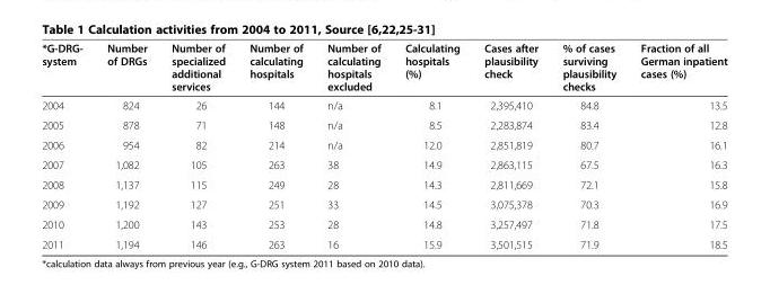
<table><thead><tr><td>*G-DRG- system</td><td>Number of DRGs</td><td>Number of specialized additional services</td><td>Number of calculating hospitals</td><td>Number of calculating hospitals excluded</td><td>Calculating hospitals (%)</td><td>Cases after plausibility check</td><td>% of cases surviving plausibility checks</td><td>Fraction of all German inpatient cases (%)</td></tr></thead><tbody><tr><td>2004</td><td>824</td><td>26</td><td>144</td><td>n/a</td><td>8.1</td><td>2,395,410</td><td>84.8</td><td>13.5</td></tr><tr><td>2005</td><td>878</td><td>71</td><td>148</td><td>n/a</td><td>8.5</td><td>2,283,874</td><td>83.4</td><td>12.8</td></tr><tr><td>2006</td><td>954</td><td>82</td><td>214</td><td>n/a</td><td>12.0</td><td>2,851,819</td><td>80.7</td><td>16.1</td></tr><tr><td>2007</td><td>1,082</td><td>105</td><td>263</td><td>38</td><td>14.9</td><td>2,863,115</td><td>67.5</td><td>16.3</td></tr><tr><td>2008</td><td>1,137</td><td>115</td><td>249</td><td>28</td><td>14.3</td><td>2,811,669</td><td>72.1</td><td>15.8</td></tr><tr><td>2009</td><td>1,192</td><td>127</td><td>251</td><td>33</td><td>14.5</td><td>3,075,378</td><td>70.3</td><td>16.9</td></tr><tr><td>2010</td><td>1,200</td><td>143</td><td>253</td><td>28</td><td>14.8</td><td>3,257,497</td><td>71.8</td><td>17.5</td></tr><tr><td>2011</td><td>1,194</td><td>146</td><td>263</td><td>16</td><td>15.9</td><td>3,501,515</td><td>71.9</td><td>18.5</td></tr></tbody></table>